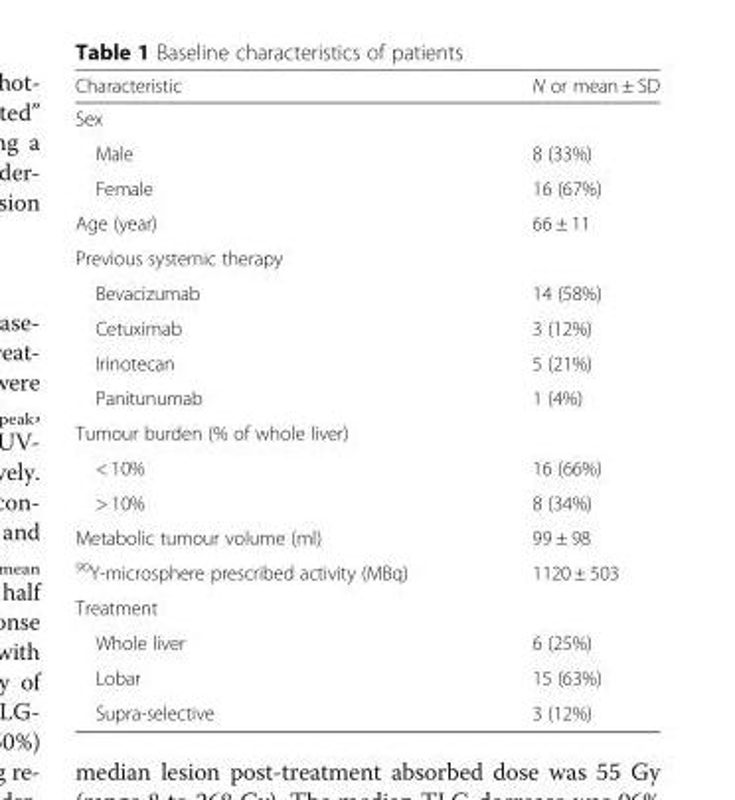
<table><thead><tr><td>Characteristic</td><td>N or mean ± SD</td></tr></thead><tbody><tr><td colspan="2">Sex</td></tr><tr><td>Male</td><td>8 (33%)</td></tr><tr><td>Female</td><td>16 (67%)</td></tr><tr><td>Age (year)</td><td>66 ± 11</td></tr><tr><td colspan="2">Previous systemic therapy</td></tr><tr><td>Bevacizumab</td><td>14 (58%)</td></tr><tr><td>Cetuximab</td><td>3 (12%)</td></tr><tr><td>Irinotecan</td><td>5 (21%)</td></tr><tr><td>Panitunumab</td><td>1 (4%)</td></tr><tr><td colspan="2">Tumour burden (% of whole liver)</td></tr><tr><td>&lt; 10%</td><td>16 (66%)</td></tr><tr><td>&gt; 10%</td><td>8 (34%)</td></tr><tr><td>Metabolic tumour volume (ml)</td><td>99 ± 98</td></tr><tr><td><sup>90</sup>Y-microsphere prescribed activity (MBq)</td><td>1120 ± 503</td></tr><tr><td colspan="2">Treatment</td></tr><tr><td>Whole liver</td><td>6 (25%)</td></tr><tr><td>Lobar</td><td>15 (63%)</td></tr><tr><td>Supra-selective</td><td>3 (12%)</td></tr></tbody></table>